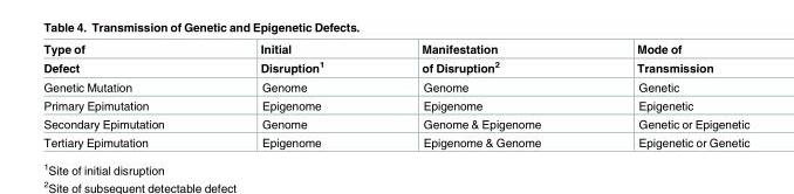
<table><thead><tr><td rowspan="2">Type of Defect</td><td rowspan="2">Initial Disruption<sup>1</sup></td><td rowspan="2">Manifestation of Disruption<sup>2</sup></td><td rowspan="2">Mode of Transmission</td></tr><tr></tr></thead><tbody><tr><td>Genetic Mutation</td><td>Genome</td><td>Genome</td><td>Genetic</td></tr><tr><td>Primary Epimutation</td><td>Epigenome</td><td>Epigenome</td><td>Epigenetic</td></tr><tr><td>Secondary Epimutation</td><td>Genome</td><td>Genome &amp; Epigenome</td><td>Genetic or Epigenetic</td></tr><tr><td>Tertiary Epimutation</td><td>Epigenome</td><td>Epigenome &amp; Genome</td><td>Epigenetic or Genetic</td></tr></tbody></table>